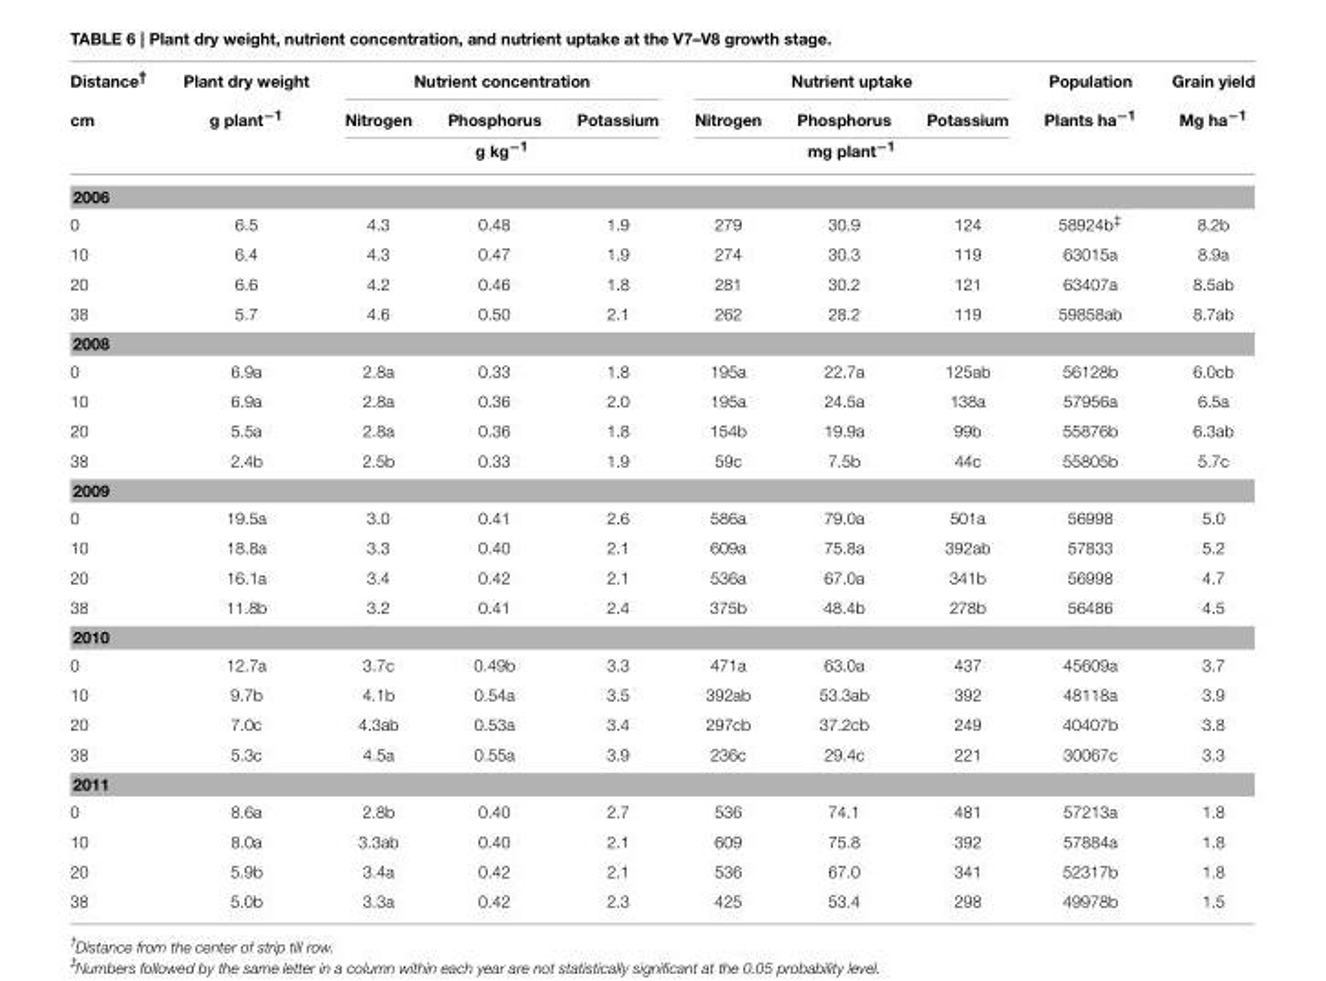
<table><thead><tr><td rowspan="3">Distance<sup>†</sup> cm</td><td rowspan="3">Plant dry weight g plant<sup>−1</sup></td><td colspan="3">Nutrient concentration</td><td colspan="3">Nutrient uptake</td><td rowspan="3">Population Plants ha<sup>−1</sup></td><td rowspan="3">Grain yield Mg ha<sup>−1</sup></td></tr><tr><td>Nitrogen</td><td>Phosphorus</td><td>Potassium</td><td>Nitrogen</td><td>Phosphorus</td><td>Potassium</td></tr><tr><td colspan="3">g kg<sup>−1</sup></td><td colspan="3">mg plant<sup>−1</sup></td></tr></thead><tbody><tr><td colspan="10">2006</td></tr><tr><td>0</td><td>6.5</td><td>4.3</td><td>0.48</td><td>1.9</td><td>279</td><td>30.9</td><td>124</td><td>58924b<sup>‡</sup></td><td>8.2b</td></tr><tr><td>10</td><td>6.4</td><td>4.3</td><td>0.47</td><td>1.9</td><td>274</td><td>30.3</td><td>119</td><td>63015a</td><td>8.9a</td></tr><tr><td>20</td><td>6.6</td><td>4.2</td><td>0.46</td><td>1.8</td><td>281</td><td>30.2</td><td>121</td><td>63407a</td><td>8.5ab</td></tr><tr><td>38</td><td>5.7</td><td>4.6</td><td>0.50</td><td>2.1</td><td>262</td><td>28.2</td><td>119</td><td>59858ab</td><td>8.7ab</td></tr><tr><td colspan="10">2008</td></tr><tr><td>0</td><td>6.9a</td><td>2.8a</td><td>0.33</td><td>1.8</td><td>195a</td><td>22.7a</td><td>125ab</td><td>56128b</td><td>6.0cb</td></tr><tr><td>10</td><td>6.9a</td><td>2.8a</td><td>0.36</td><td>2.0</td><td>195a</td><td>24.5a</td><td>138a</td><td>57956a</td><td>6.5a</td></tr><tr><td>20</td><td>5.5a</td><td>2.8a</td><td>0.36</td><td>1.8</td><td>154b</td><td>19.9a</td><td>99b</td><td>55876b</td><td>6.3ab</td></tr><tr><td>38</td><td>2.4b</td><td>2.5b</td><td>0.33</td><td>1.9</td><td>59c</td><td>7.5b</td><td>44c</td><td>55805b</td><td>5.7c</td></tr><tr><td colspan="10">2009</td></tr><tr><td>0</td><td>19.5a</td><td>3.0</td><td>0.41</td><td>2.6</td><td>586a</td><td>79.0a</td><td>501a</td><td>56998</td><td>5.0</td></tr><tr><td>10</td><td>18.8a</td><td>3.3</td><td>0.40</td><td>2.1</td><td>609a</td><td>75.8a</td><td>392ab</td><td>57833</td><td>5.2</td></tr><tr><td>20</td><td>16.1a</td><td>3.4</td><td>0.42</td><td>2.1</td><td>536a</td><td>67.0a</td><td>341b</td><td>56998</td><td>4.7</td></tr><tr><td>38</td><td>11.8b</td><td>3.2</td><td>0.41</td><td>2.4</td><td>375b</td><td>48.4b</td><td>278b</td><td>56486</td><td>4.5</td></tr><tr><td colspan="10">2010</td></tr><tr><td>0</td><td>12.7a</td><td>3.7c</td><td>0.49b</td><td>3.3</td><td>471a</td><td>63.0a</td><td>437</td><td>45609a</td><td>3.7</td></tr><tr><td>10</td><td>9.7b</td><td>4.1b</td><td>0.54a</td><td>3.5</td><td>392ab</td><td>53.3ab</td><td>392</td><td>48118a</td><td>3.9</td></tr><tr><td>20</td><td>7.0c</td><td>4.3ab</td><td>0.53a</td><td>3.4</td><td>297cb</td><td>37.2cb</td><td>249</td><td>40407b</td><td>3.8</td></tr><tr><td>38</td><td>5.3c</td><td>4.5a</td><td>0.55a</td><td>3.9</td><td>236c</td><td>29.4c</td><td>221</td><td>30067c</td><td>3.3</td></tr><tr><td colspan="10">2011</td></tr><tr><td>0</td><td>8.6a</td><td>2.8b</td><td>0.40</td><td>2.7</td><td>536</td><td>74.1</td><td>481</td><td>57213a</td><td>1.8</td></tr><tr><td>10</td><td>8.0a</td><td>3.3ab</td><td>0.40</td><td>2.1</td><td>609</td><td>75.8</td><td>392</td><td>57884a</td><td>1.8</td></tr><tr><td>20</td><td>5.9b</td><td>3.4a</td><td>0.42</td><td>2.1</td><td>536</td><td>67.0</td><td>341</td><td>52317b</td><td>1.8</td></tr><tr><td>38</td><td>5.0b</td><td>3.3a</td><td>0.42</td><td>2.3</td><td>425</td><td>53.4</td><td>298</td><td>49978b</td><td>1.5</td></tr></tbody></table>